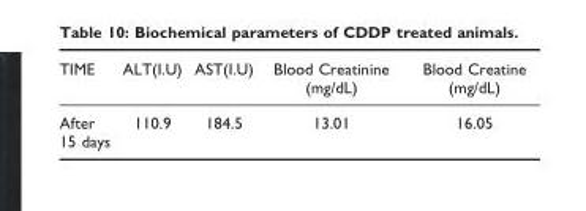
<table><thead><tr><td>TIME</td><td>ALT(I.U)</td><td>AST(I.U)</td><td>Blood Creatinine (mg/dL)</td><td>Blood Creatine (mg/dL)</td></tr></thead><tbody><tr><td>After 15 days</td><td>110.9</td><td>184.5</td><td>13.01</td><td>16.05</td></tr></tbody></table>